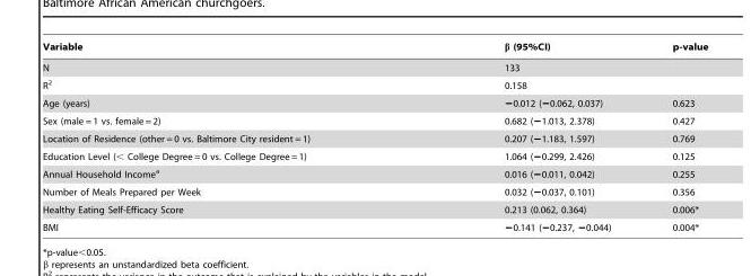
<table><thead><tr><td>Variable</td><td>β (95%CI)</td><td>p-value</td></tr></thead><tbody><tr><td>N</td><td>133</td><td></td></tr><tr><td>R<sup>2</sup></td><td>0.158</td><td></td></tr><tr><td>Age (years)</td><td>−0.012 (−0.062, 0.037)</td><td>0.623</td></tr><tr><td>Sex (male = 1 vs. female = 2)</td><td>0.682 (−1.013, 2.378)</td><td>0.427</td></tr><tr><td>Location of Residence (other = 0 vs. Baltimore City resident = 1)</td><td>0.207 (−1.183, 1.597)</td><td>0.769</td></tr><tr><td>Education Level (&lt; College Degree = 0 vs. College Degree = 1)</td><td>1.064 (−0.299, 2.426)</td><td>0.125</td></tr><tr><td>Annual Household Income<sup>a</sup></td><td>0.016 (−0.011, 0.042)</td><td>0.255</td></tr><tr><td>Number of Meals Prepared per Week</td><td>0.032 (−0.037, 0.101)</td><td>0.356</td></tr><tr><td>Healthy Eating Self-Efficacy Score</td><td>0.213 (0.062, 0.364)</td><td>0.006*</td></tr><tr><td>BMI</td><td>−0.141 (−0.237, −0.044)</td><td>0.004*</td></tr></tbody></table>